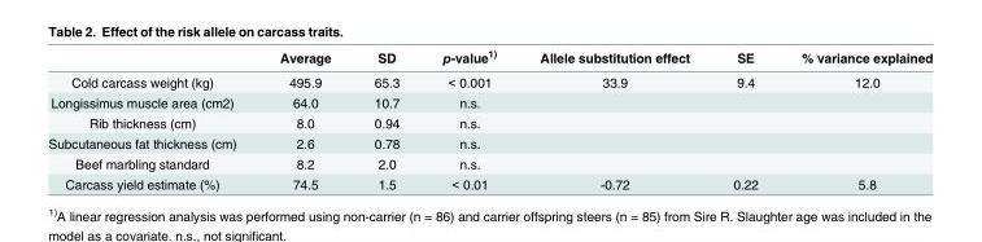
<table><thead><tr><td></td><td>Average</td><td>SD</td><td>p-value<sup>1)</sup></td><td>Allele substitution effect</td><td>SE</td><td>% variance explained</td></tr></thead><tbody><tr><td>Cold carcass weight (kg)</td><td>495.9</td><td>65.3</td><td>&lt; 0.001</td><td>33.9</td><td>9.4</td><td>12.0</td></tr><tr><td>Longissimus muscle area (cm2)</td><td>64.0</td><td>10.7</td><td>n.s.</td><td></td><td></td><td></td></tr><tr><td>Rib thickness (cm)</td><td>8.0</td><td>0.94</td><td>n.s.</td><td></td><td></td><td></td></tr><tr><td>Subcutaneous fat thickness (cm)</td><td>2.6</td><td>0.78</td><td>n.s.</td><td></td><td></td><td></td></tr><tr><td>Beef marbling standard</td><td>8.2</td><td>2.0</td><td>n.s.</td><td></td><td></td><td></td></tr><tr><td>Carcass yield estimate (%)</td><td>74.5</td><td>1.5</td><td>&lt; 0.01</td><td>-0.72</td><td>0.22</td><td>5.8</td></tr></tbody></table>